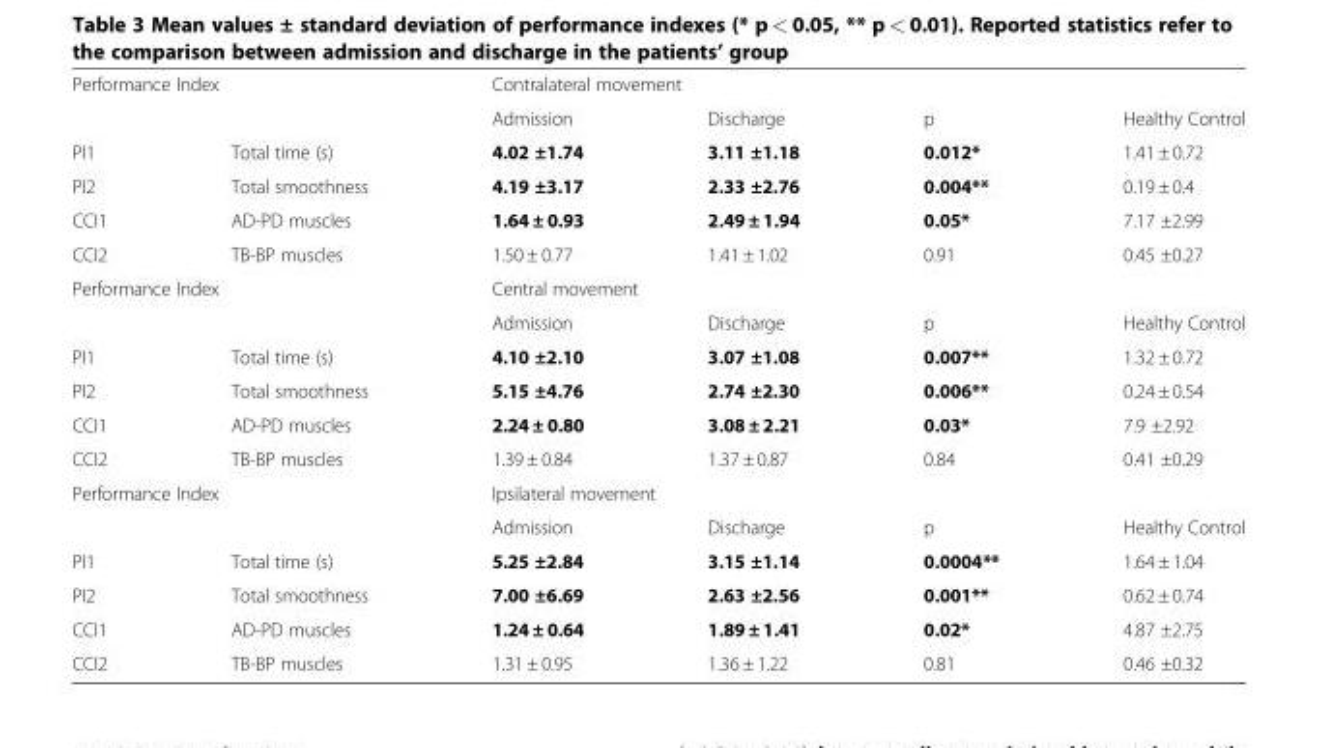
<table><tbody><tr><td colspan="2">Performance Index</td><td colspan="4">Contralateral movement</td></tr><tr><td></td><td></td><td>Admission</td><td>Discharge</td><td>p</td><td>Healthy Control</td></tr><tr><td>PI1</td><td>Total time (s)</td><td>4.02 ±1.74</td><td>3.11 ±1.18</td><td>0.012*</td><td>1.41 ± 0.72</td></tr><tr><td>PI2</td><td>Total smoothness</td><td>4.19 ±3.17</td><td>2.33 ±2.76</td><td>0.004**</td><td>0.19 ± 0.4</td></tr><tr><td>CCI1</td><td>AD-PD muscles</td><td>1.64 ± 0.93</td><td>2.49 ± 1.94</td><td>0.05*</td><td>7.17 ±2.99</td></tr><tr><td>CCI2</td><td>TB-BP muscles</td><td>1.50 ± 0.77</td><td>1.41 ± 1.02</td><td>0.91</td><td>0.45 ±0.27</td></tr><tr><td rowspan="2" colspan="2">Performance Index</td><td colspan="4">Central movement</td></tr><tr><td>Admission</td><td>Discharge</td><td>p</td><td>Healthy Control</td></tr><tr><td>PI1</td><td>Total time (s)</td><td>4.10 ±2.10</td><td>3.07 ±1.08</td><td>0.007**</td><td>1.32 ± 0.72</td></tr><tr><td>PI2</td><td>Total smoothness</td><td>5.15 ±4.76</td><td>2.74 ±2.30</td><td>0.006**</td><td>0.24 ± 0.54</td></tr><tr><td>CCI1</td><td>AD-PD muscles</td><td>2.24 ± 0.80</td><td>3.08 ± 2.21</td><td>0.03*</td><td>7.9 ±2.92</td></tr><tr><td>CCI2</td><td>TB-BP muscles</td><td>1.39 ± 0.84</td><td>1.37 ± 0.87</td><td>0.84</td><td>0.41 ±0.29</td></tr><tr><td rowspan="2" colspan="2">Performance Index</td><td colspan="4">Ipsilateral movement</td></tr><tr><td>Admission</td><td>Discharge</td><td>p</td><td>Healthy Control</td></tr><tr><td>PI1</td><td>Total time (s)</td><td>5.25 ±2.84</td><td>3.15 ±1.14</td><td>0.0004**</td><td>1.64 ± 1.04</td></tr><tr><td>PI2</td><td>Total smoothness</td><td>7.00 ±6.69</td><td>2.63 ±2.56</td><td>0.001**</td><td>0.62 ± 0.74</td></tr><tr><td>CCI1</td><td>AD-PD muscles</td><td>1.24 ± 0.64</td><td>1.89 ± 1.41</td><td>0.02*</td><td>4.87 ±2.75</td></tr><tr><td>CCI2</td><td>TB-BP muscles</td><td>1.31 ± 0.95</td><td>1.36 ± 1.22</td><td>0.81</td><td>0.46 ±0.32</td></tr></tbody></table>